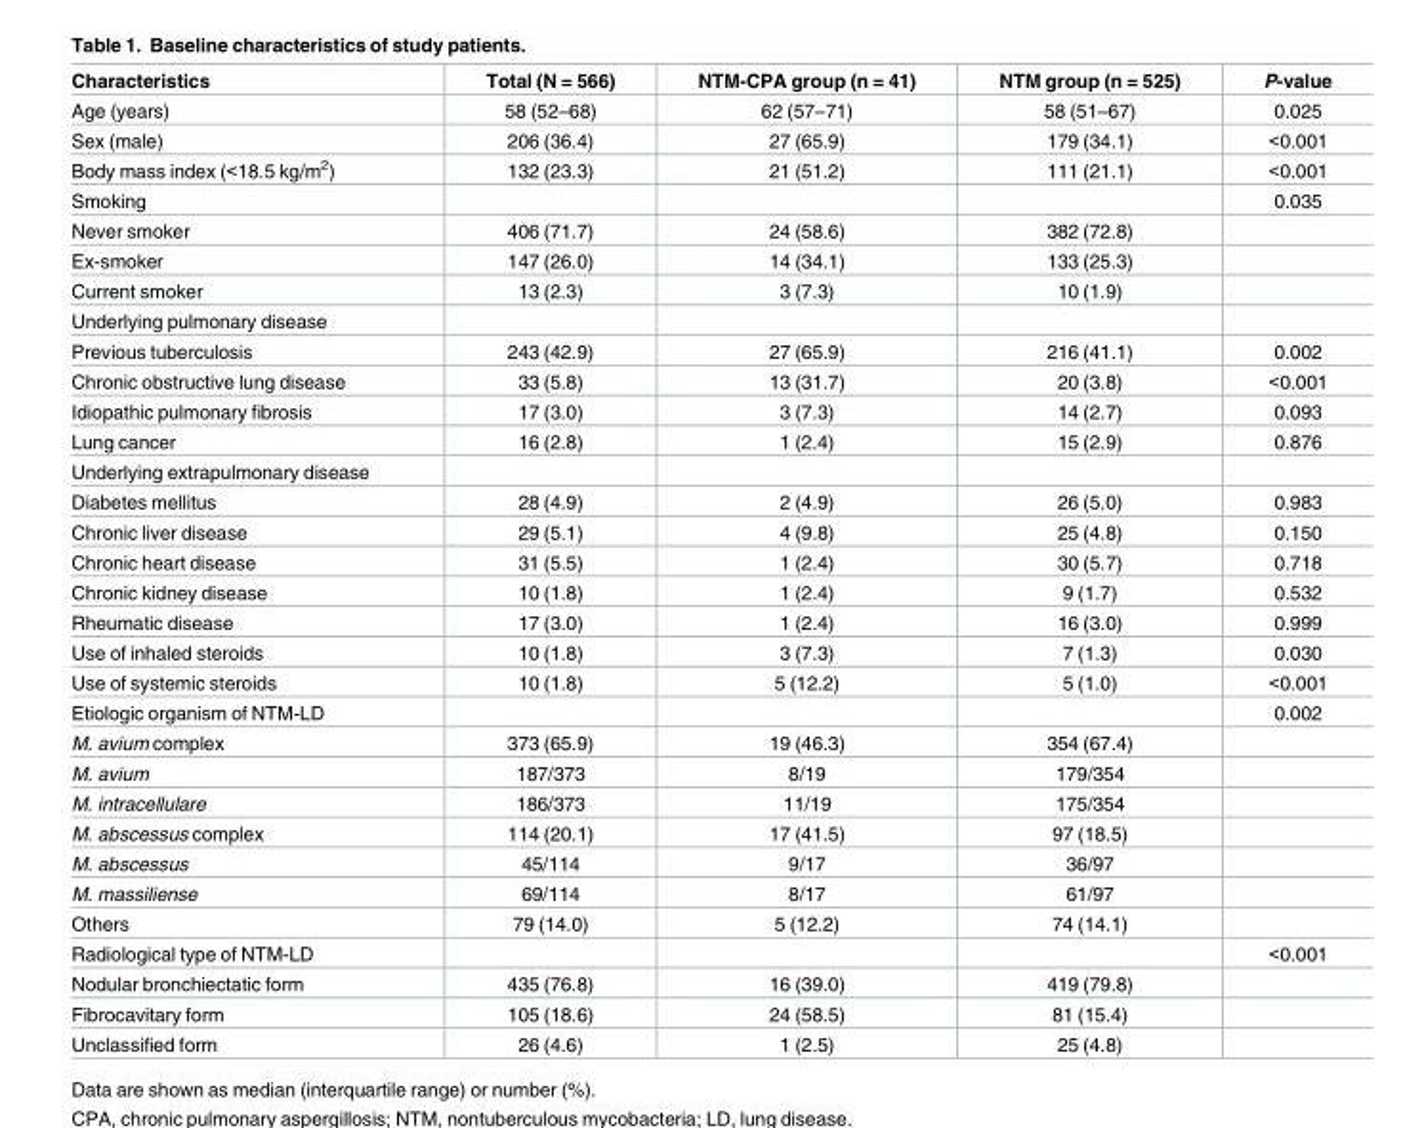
<table><thead><tr><td>Characteristics</td><td>Total (N = 566)</td><td>NTM-CPA group (n = 41)</td><td>NTM group (n = 525)</td><td>P-value</td></tr></thead><tbody><tr><td>Age (years)</td><td>58 (52–68)</td><td>62 (57–71)</td><td>58 (51–67)</td><td>0.025</td></tr><tr><td>Sex (male)</td><td>206 (36.4)</td><td>27 (65.9)</td><td>179 (34.1)</td><td>&lt;0.001</td></tr><tr><td>Body mass index (&lt;18.5 kg/m<sup>2</sup>)</td><td>132 (23.3)</td><td>21 (51.2)</td><td>111 (21.1)</td><td>&lt;0.001</td></tr><tr><td>Smoking</td><td></td><td></td><td></td><td>0.035</td></tr><tr><td>Never smoker</td><td>406 (71.7)</td><td>24 (58.6)</td><td>382 (72.8)</td><td></td></tr><tr><td>Ex-smoker</td><td>147 (26.0)</td><td>14 (34.1)</td><td>133 (25.3)</td><td></td></tr><tr><td>Current smoker</td><td>13 (2.3)</td><td>3 (7.3)</td><td>10 (1.9)</td><td></td></tr><tr><td colspan="5">Underlying pulmonary disease</td></tr><tr><td>Previous tuberculosis</td><td>243 (42.9)</td><td>27 (65.9)</td><td>216 (41.1)</td><td>0.002</td></tr><tr><td>Chronic obstructive lung disease</td><td>33 (5.8)</td><td>13 (31.7)</td><td>20 (3.8)</td><td>&lt;0.001</td></tr><tr><td>Idiopathic pulmonary fibrosis</td><td>17 (3.0)</td><td>3 (7.3)</td><td>14 (2.7)</td><td>0.093</td></tr><tr><td>Lung cancer</td><td>16 (2.8)</td><td>1 (2.4)</td><td>15 (2.9)</td><td>0.876</td></tr><tr><td colspan="5">Underlying extrapulmonary disease</td></tr><tr><td>Diabetes mellitus</td><td>28 (4.9)</td><td>2 (4.9)</td><td>26 (5.0)</td><td>0.983</td></tr><tr><td>Chronic liver disease</td><td>29 (5.1)</td><td>4 (9.8)</td><td>25 (4.8)</td><td>0.150</td></tr><tr><td>Chronic heart disease</td><td>31 (5.5)</td><td>1 (2.4)</td><td>30 (5.7)</td><td>0.718</td></tr><tr><td>Chronic kidney disease</td><td>10 (1.8)</td><td>1 (2.4)</td><td>9 (1.7)</td><td>0.532</td></tr><tr><td>Rheumatic disease</td><td>17 (3.0)</td><td>1 (2.4)</td><td>16 (3.0)</td><td>0.999</td></tr><tr><td>Use of inhaled steroids</td><td>10 (1.8)</td><td>3 (7.3)</td><td>7 (1.3)</td><td>0.030</td></tr><tr><td>Use of systemic steroids</td><td>10 (1.8)</td><td>5 (12.2)</td><td>5 (1.0)</td><td>&lt;0.001</td></tr><tr><td>Etiologic organism of NTM-LD</td><td></td><td></td><td></td><td>0.002</td></tr><tr><td>M. avium complex</td><td>373 (65.9)</td><td>19 (46.3)</td><td>354 (67.4)</td><td></td></tr><tr><td>M. avium</td><td>187/373</td><td>8/19</td><td>179/354</td><td></td></tr><tr><td>M. intracellulare</td><td>186/373</td><td>11/19</td><td>175/354</td><td></td></tr><tr><td>M. abscessus complex</td><td>114 (20.1)</td><td>17 (41.5)</td><td>97 (18.5)</td><td></td></tr><tr><td>M. abscessus</td><td>45/114</td><td>9/17</td><td>36/97</td><td></td></tr><tr><td>M. massiliense</td><td>69/114</td><td>8/17</td><td>61/97</td><td></td></tr><tr><td>Others</td><td>79 (14.0)</td><td>5 (12.2)</td><td>74 (14.1)</td><td></td></tr><tr><td>Radiological type of NTM-LD</td><td></td><td></td><td></td><td>&lt;0.001</td></tr><tr><td>Nodular bronchiectatic form</td><td>435 (76.8)</td><td>16 (39.0)</td><td>419 (79.8)</td><td></td></tr><tr><td>Fibrocavitary form</td><td>105 (18.6)</td><td>24 (58.5)</td><td>81 (15.4)</td><td></td></tr><tr><td>Unclassified form</td><td>26 (4.6)</td><td>1 (2.5)</td><td>25 (4.8)</td><td></td></tr></tbody></table>